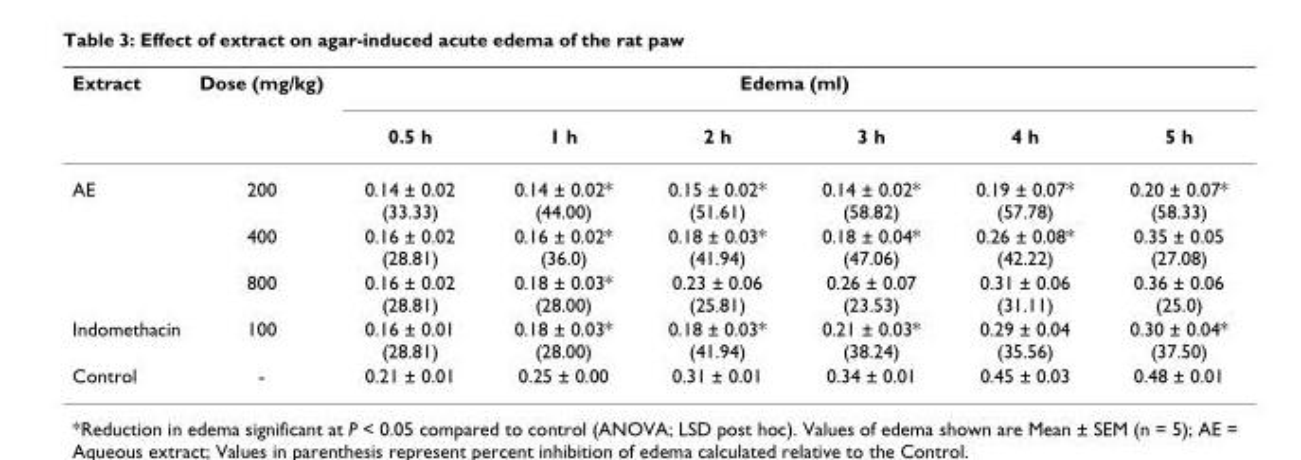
<table><thead><tr><td rowspan="2">Extract</td><td rowspan="2">Dose (mg/kg)</td><td colspan="6">Edema (ml)</td></tr><tr><td>0.5 h</td><td>1 h</td><td>2 h</td><td>3 h</td><td>4 h</td><td>5 h</td></tr></thead><tbody><tr><td rowspan="3">AE</td><td>200</td><td>0.14 ± 0.02 (33.33)</td><td>0.14 ± 0.02* (44.00)</td><td>0.15 ± 0.02* (51.61)</td><td>0.14 ± 0.02* (58.82)</td><td>0.19 ± 0.07* (57.78)</td><td>0.20 ± 0.07* (58.33)</td></tr><tr><td>400</td><td>0.16 ± 0.02 (28.81)</td><td>0.16 ± 0.02* (36.0)</td><td>0.18 ± 0.03* (41.94)</td><td>0.18 ± 0.04* (47.06)</td><td>0.26 ± 0.08* (42.22)</td><td>0.35 ± 0.05 (27.08)</td></tr><tr><td>800</td><td>0.16 ± 0.02 (28.81)</td><td>0.18 ± 0.03* (28.00)</td><td>0.23 ± 0.06 (25.81)</td><td>0.26 ± 0.07 (23.53)</td><td>0.31 ± 0.06 (31.11)</td><td>0.36 ± 0.06 (25.0)</td></tr><tr><td>Indomethacin</td><td>100</td><td>0.16 ± 0.01 (28.81)</td><td>0.18 ± 0.03* (28.00)</td><td>0.18 ± 0.03* (41.94)</td><td>0.21 ± 0.03* (38.24)</td><td>0.29 ± 0.04 (35.56)</td><td>0.30 ± 0.04* (37.50)</td></tr><tr><td>Control</td><td>-</td><td>0.21 ± 0.01</td><td>0.25 ± 0.00</td><td>0.31 ± 0.01</td><td>0.34 ± 0.01</td><td>0.45 ± 0.03</td><td>0.48 ± 0.01</td></tr></tbody></table>